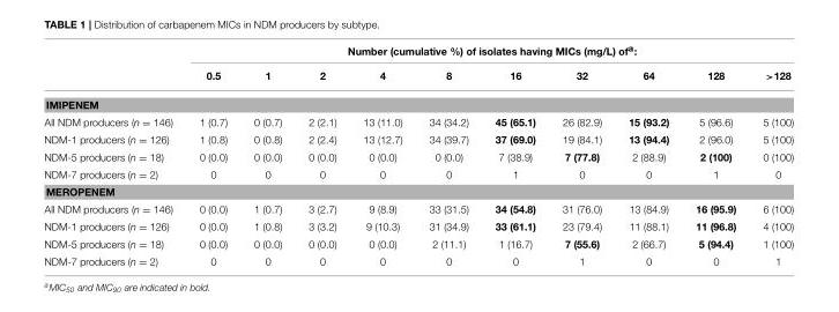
<table><thead><tr><td rowspan="2"></td><td colspan="10">Number (cumulative %) of isolates having MICs (mg/L) of<sup>a</sup>:</td></tr><tr><td>0.5</td><td>1</td><td>2</td><td>4</td><td>8</td><td>16</td><td>32</td><td>64</td><td>128</td><td>&gt;128</td></tr></thead><tbody><tr><td colspan="11">IMIPENEM</td></tr><tr><td>All NDM producers (n = 146)</td><td>1 (0.7)</td><td>0 (0.7)</td><td>2 (2.1)</td><td>13 (11.0)</td><td>34 (34.2)</td><td>45 (65.1)</td><td>26 (82.9)</td><td>15 (93.2)</td><td>5 (96.6)</td><td>5 (100)</td></tr><tr><td>NDM-1 producers (n = 126)</td><td>1 (0.8)</td><td>0 (0.8)</td><td>2 (2.4)</td><td>13 (12.7)</td><td>34 (39.7)</td><td>37 (69.0)</td><td>19 (84.1)</td><td>13 (94.4)</td><td>2 (96.0)</td><td>5 (100)</td></tr><tr><td>NDM-5 producers (n = 18)</td><td>0 (0.0)</td><td>0 (0.0)</td><td>0 (0.0)</td><td>0 (0.0)</td><td>0 (0.0)</td><td>7 (38.9)</td><td>7 (77.8)</td><td>2 (88.9)</td><td>2 (100)</td><td>0 (100)</td></tr><tr><td>NDM-7 producers (n = 2)</td><td>0</td><td>0</td><td>0</td><td>0</td><td>0</td><td>1</td><td>0</td><td>0</td><td>1</td><td>0</td></tr><tr><td colspan="11">MEROPENEM</td></tr><tr><td>All NDM producers (n = 146)</td><td>0 (0.0)</td><td>1 (0.7)</td><td>3 (2.7)</td><td>9 (8.9)</td><td>33 (31.5)</td><td>34 (54.8)</td><td>31 (76.0)</td><td>13 (84.9)</td><td>16 (95.9)</td><td>6 (100)</td></tr><tr><td>NDM-1 producers (n = 126)</td><td>0 (0.0)</td><td>1 (0.8)</td><td>3 (3.2)</td><td>9 (10.3)</td><td>31 (34.9)</td><td>33 (61.1)</td><td>23 (79.4)</td><td>11 (88.1)</td><td>11 (96.8)</td><td>4 (100)</td></tr><tr><td>NDM-5 producers (n = 18)</td><td>0 (0.0)</td><td>0 (0.0)</td><td>0 (0.0)</td><td>0 (0.0)</td><td>2 (11.1)</td><td>1 (16.7)</td><td>7 (55.6)</td><td>2 (66.7)</td><td>5 (94.4)</td><td>1 (100)</td></tr><tr><td>NDM-7 producers (n = 2)</td><td>0</td><td>0</td><td>0</td><td>0</td><td>0</td><td>0</td><td>1</td><td>0</td><td>0</td><td>1</td></tr></tbody></table>